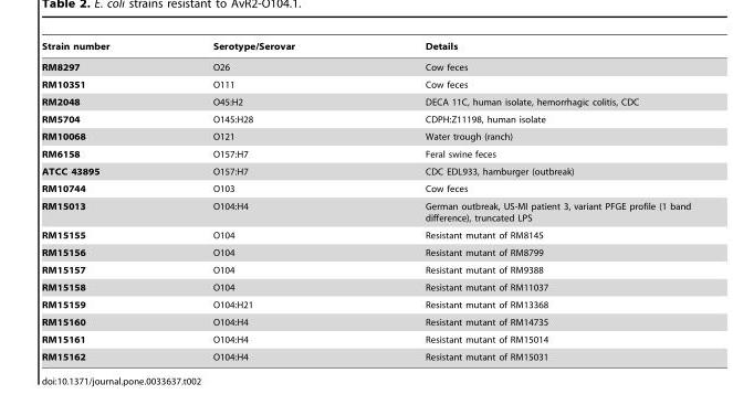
<table><thead><tr><td>Strain number</td><td>Serotype/Serovar</td><td>Details</td></tr></thead><tbody><tr><td>RM8297</td><td>O26</td><td>Cow feces</td></tr><tr><td>RM10351</td><td>O111</td><td>Cow feces</td></tr><tr><td>RM2048</td><td>O45:H2</td><td>DECA 11C, human isolate, hemorrhagic colitis, CDC</td></tr><tr><td>RM5704</td><td>O145:H28</td><td>CDPH:Z11198, human isolate</td></tr><tr><td>RM10068</td><td>O121</td><td>Water trough (ranch)</td></tr><tr><td>RM6158</td><td>O157:H7</td><td>Feral swine feces</td></tr><tr><td>ATCC 43895</td><td>O157:H7</td><td>CDC EDL933, hamburger (outbreak)</td></tr><tr><td>RM10744</td><td>O103</td><td>Cow feces</td></tr><tr><td>RM15013</td><td>O104:H4</td><td>German outbreak, US-MI patient 3, variant PFGE profile (1 band difference), truncated LPS</td></tr><tr><td>RM15155</td><td>O104</td><td>Resistant mutant of RM8145</td></tr><tr><td>RM15156</td><td>O104</td><td>Resistant mutant of RM8799</td></tr><tr><td>RM15157</td><td>O104</td><td>Resistant mutant of RM9388</td></tr><tr><td>RM15158</td><td>O104</td><td>Resistant mutant of RM11037</td></tr><tr><td>RM15159</td><td>O104:H21</td><td>Resistant mutant of RM13368</td></tr><tr><td>RM15160</td><td>O104:H4</td><td>Resistant mutant of RM14735</td></tr><tr><td>RM15161</td><td>O104:H4</td><td>Resistant mutant of RM15014</td></tr><tr><td>RM15162</td><td>O104:H4</td><td>Resistant mutant of RM15031</td></tr></tbody></table>